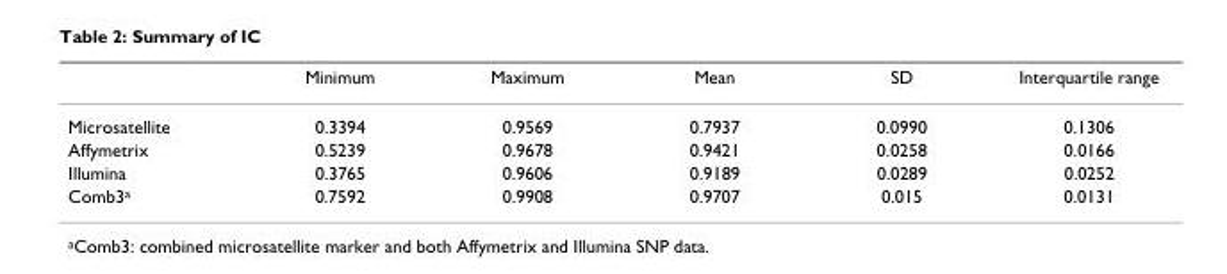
<table><thead><tr><td></td><td>Minimum</td><td>Maximum</td><td>Mean</td><td>SD</td><td>Interquartile range</td></tr></thead><tbody><tr><td>Microsatellite</td><td>0.3394</td><td>0.9569</td><td>0.7937</td><td>0.0990</td><td>0.1306</td></tr><tr><td>Affymetrix</td><td>0.5239</td><td>0.9678</td><td>0.9421</td><td>0.0258</td><td>0.0166</td></tr><tr><td>Illumina</td><td>0.3765</td><td>0.9606</td><td>0.9189</td><td>0.0289</td><td>0.0252</td></tr><tr><td>Comb3a</td><td>0.7592</td><td>0.9908</td><td>0.9707</td><td>0.015</td><td>0.0131</td></tr></tbody></table>